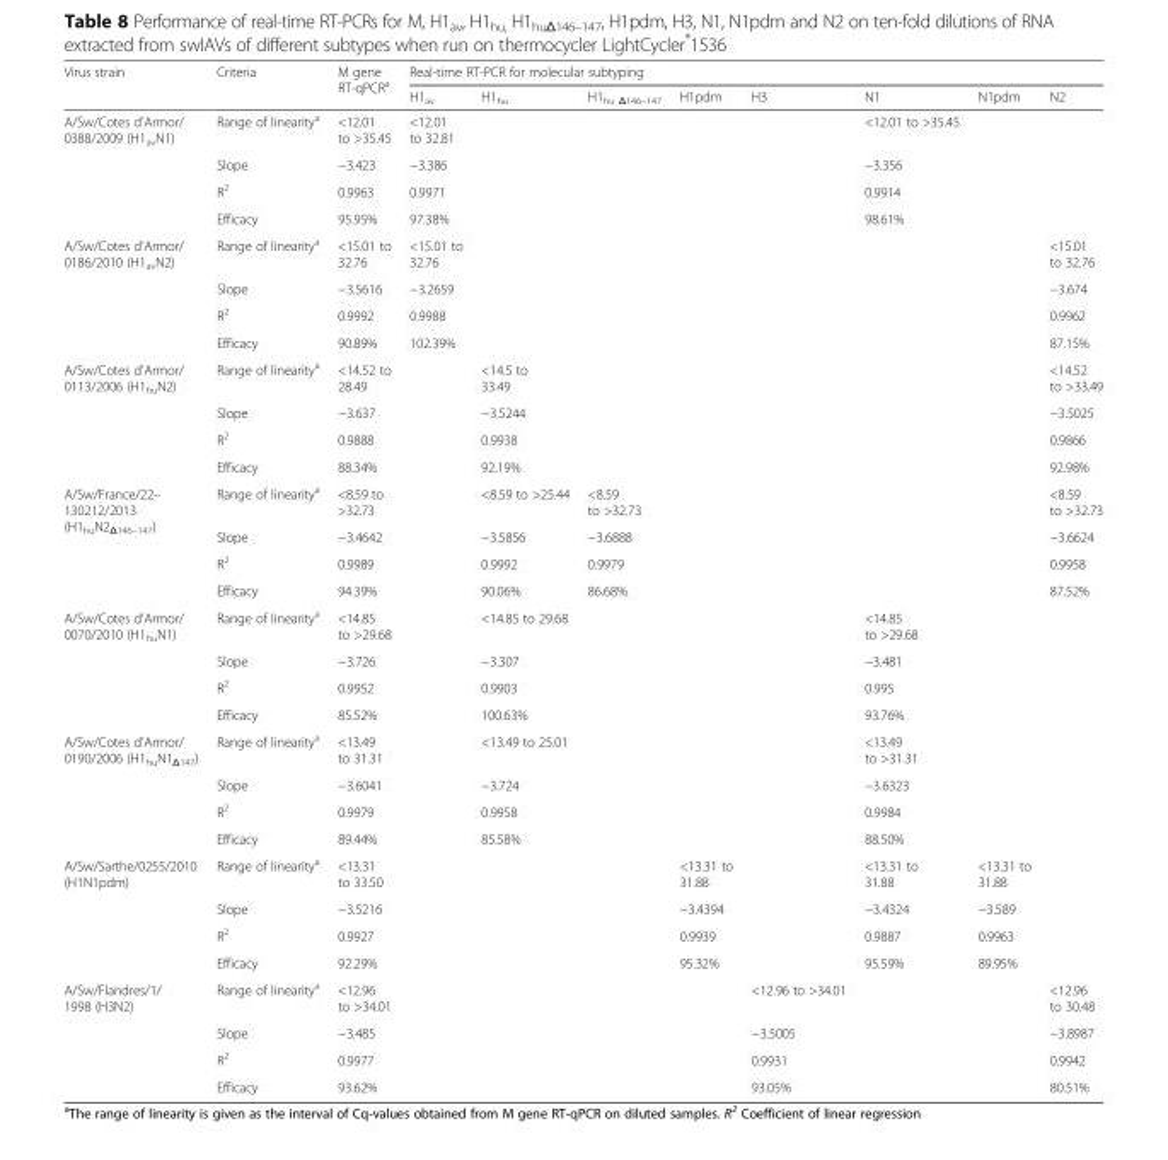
<table><thead><tr><td rowspan="2">Virus strain</td><td rowspan="2">Criteria</td><td rowspan="2">M gene RT-qPCR<sup>a</sup></td><td colspan="8">Real-time RT-PCR for molecular subtyping</td></tr><tr><td>H1<sub>av</sub></td><td>H1<sub>hu</sub></td><td>H1<sub>hu Δ146–147</sub></td><td>H1pdm</td><td>H3</td><td>N1</td><td>N1pdm</td><td>N2</td></tr></thead><tbody><tr><td rowspan="4">A/Sw/Cotes d’Armor/ 0388/2009 (H1<sub>av</sub>N1)</td><td>Range of linearity<sup>a</sup></td><td>&lt;12.01 to &gt;35.45</td><td>&lt;12.01 to 32.81</td><td></td><td></td><td></td><td></td><td>&lt;12.01 to &gt;35.45</td><td></td><td></td></tr><tr><td>Slope</td><td>−3.423</td><td>−3.386</td><td></td><td></td><td></td><td></td><td>−3.356</td><td></td><td></td></tr><tr><td>R<sup>2</sup></td><td>0.9963</td><td>0.9971</td><td></td><td></td><td></td><td></td><td>0.9914</td><td></td><td></td></tr><tr><td>Efficacy</td><td>95.95%</td><td>97.38%</td><td></td><td></td><td></td><td></td><td>98.61%</td><td></td><td></td></tr><tr><td rowspan="4">A/Sw/Cotes d’Armor/ 0186/2010 (H1<sub>av</sub>N2)</td><td>Range of linearity<sup>a</sup></td><td>&lt;15.01 to 32.76</td><td>&lt;15.01 to 32.76</td><td></td><td></td><td></td><td></td><td></td><td></td><td>&lt;15.01 to 32.76</td></tr><tr><td>Slope</td><td>−3.5616</td><td>−3.2659</td><td></td><td></td><td></td><td></td><td></td><td></td><td>−3.674</td></tr><tr><td>R<sup>2</sup></td><td>0.9992</td><td>0.9988</td><td></td><td></td><td></td><td></td><td></td><td></td><td>0.9962</td></tr><tr><td>Efficacy</td><td>90.89%</td><td>102.39%</td><td></td><td></td><td></td><td></td><td></td><td></td><td>87.15%</td></tr><tr><td rowspan="4">A/Sw/Cotes d’Armor/ 0113/2006 (H1<sub>hu</sub>N2)</td><td>Range of linearity<sup>a</sup></td><td>&lt;14.52 to 28.49</td><td></td><td>&lt;14.5 to 33.49</td><td></td><td></td><td></td><td></td><td></td><td>&lt;14.52 to &gt;33.49</td></tr><tr><td>Slope</td><td>−3.637</td><td></td><td>−3.5244</td><td></td><td></td><td></td><td></td><td></td><td>−3.5025</td></tr><tr><td>R<sup>2</sup></td><td>0.9888</td><td></td><td>0.9938</td><td></td><td></td><td></td><td></td><td></td><td>0.9866</td></tr><tr><td>Efficacy</td><td>88.34%</td><td></td><td>92.19%</td><td></td><td></td><td></td><td></td><td></td><td>92.98%</td></tr><tr><td rowspan="4">A/Sw/France/22– 130212/2013 (H1<sub>hu</sub>N2<sub>Δ146–147</sub>)</td><td>Range of linearity<sup>a</sup></td><td>&lt;8.59 to &gt;32.73</td><td></td><td>&lt;8.59 to &gt;25.44</td><td>&lt;8.59 to &gt;32.73</td><td></td><td></td><td></td><td></td><td>&lt;8.59 to &gt;32.73</td></tr><tr><td>Slope</td><td>−3.4642</td><td></td><td>−3.5856</td><td>−3.6888</td><td></td><td></td><td></td><td></td><td>−3.6624</td></tr><tr><td>R<sup>2</sup></td><td>0.9989</td><td></td><td>0.9992</td><td>0.9979</td><td></td><td></td><td></td><td></td><td>0.9958</td></tr><tr><td>Efficacy</td><td>94.39%</td><td></td><td>90.06%</td><td>86.68%</td><td></td><td></td><td></td><td></td><td>87.52%</td></tr><tr><td rowspan="4">A/Sw/Cotes d’Armor/ 0070/2010 (H1<sub>hu</sub>N1)</td><td>Range of linearity<sup>a</sup></td><td>&lt;14.85 to &gt;29.68</td><td></td><td>&lt;14.85 to 29.68</td><td></td><td></td><td></td><td>&lt;14.85 to &gt;29.68</td><td></td><td></td></tr><tr><td>Slope</td><td>−3.726</td><td></td><td>−3.307</td><td></td><td></td><td></td><td>−3.481</td><td></td><td></td></tr><tr><td>R<sup>2</sup></td><td>0.9952</td><td></td><td>0.9903</td><td></td><td></td><td></td><td>0.995</td><td></td><td></td></tr><tr><td>Efficacy</td><td>85.52%</td><td></td><td>100.63%</td><td></td><td></td><td></td><td>93.76%</td><td></td><td></td></tr><tr><td rowspan="4">A/Sw/Cotes d’Armor/ 0190/2006 (H1<sub>hu</sub>N1<sub>Δ147</sub>)</td><td>Range of linearity<sup>a</sup></td><td>&lt;13.49 to 31.31</td><td></td><td>&lt;13.49 to 25.01</td><td></td><td></td><td></td><td>&lt;13.49 to &gt;31.31</td><td></td><td></td></tr><tr><td>Slope</td><td>−3.6041</td><td></td><td>−3.724</td><td></td><td></td><td></td><td>−3.6323</td><td></td><td></td></tr><tr><td>R<sup>2</sup></td><td>0.9979</td><td></td><td>0.9958</td><td></td><td></td><td></td><td>0.9984</td><td></td><td></td></tr><tr><td>Efficacy</td><td>89.44%</td><td></td><td>85.58%</td><td></td><td></td><td></td><td>88.50%</td><td></td><td></td></tr><tr><td rowspan="4">A/Sw/Sarthe/0255/2010 (H1N1pdm)</td><td>Range of linearity<sup>a</sup></td><td>&lt;13.31 to 33.50</td><td></td><td></td><td></td><td>&lt;13.31 to 31.88</td><td></td><td>&lt;13.31 to 31.88</td><td>&lt;13.31 to 31.88</td><td></td></tr><tr><td>Slope</td><td>−3.5216</td><td></td><td></td><td></td><td>−3.4394</td><td></td><td>−3.4324</td><td>−3.589</td><td></td></tr><tr><td>R<sup>2</sup></td><td>0.9927</td><td></td><td></td><td></td><td>0.9939</td><td></td><td>0.9887</td><td>0.9963</td><td></td></tr><tr><td>Efficacy</td><td>92.29%</td><td></td><td></td><td></td><td>95.32%</td><td></td><td>95.59%</td><td>89.95%</td><td></td></tr><tr><td rowspan="4">A/Sw/Flandres/1/ 1998 (H3N2)</td><td>Range of linearity<sup>a</sup></td><td>&lt;12.96 to &gt;34.01</td><td></td><td></td><td></td><td></td><td>&lt;12.96 to &gt;34.01</td><td></td><td></td><td>&lt;12.96 to 30.48</td></tr><tr><td>Slope</td><td>−3.485</td><td></td><td></td><td></td><td></td><td>−3.5005</td><td></td><td></td><td>−3.8987</td></tr><tr><td>R<sup>2</sup></td><td>0.9977</td><td></td><td></td><td></td><td></td><td>0.9931</td><td></td><td></td><td>0.9942</td></tr><tr><td>Efficacy</td><td>93.62%</td><td></td><td></td><td></td><td></td><td>93.05%</td><td></td><td></td><td>80.51%</td></tr></tbody></table>